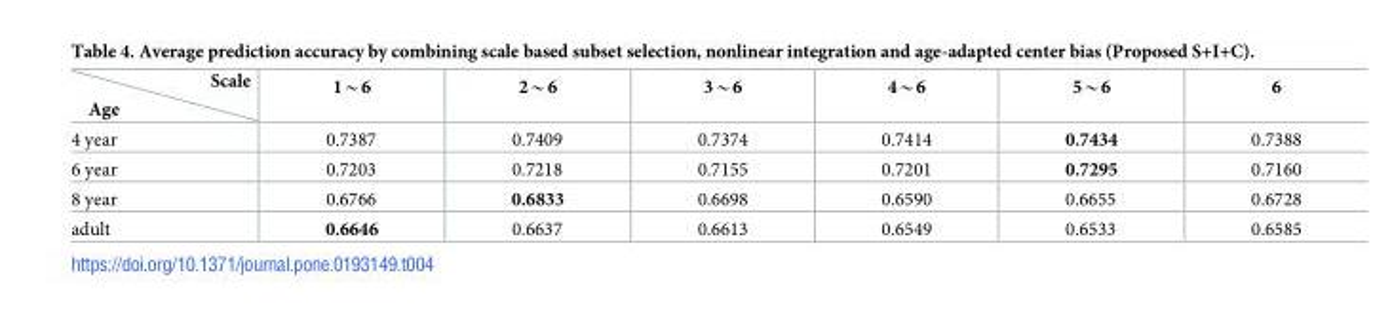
<table><thead><tr><td>Age Scale</td><td>1*6</td><td>2*6</td><td>3*6</td><td>4*6</td><td>5*6</td><td>6</td></tr></thead><tbody><tr><td>4 year</td><td>0.7387</td><td>0.7409</td><td>0.7374</td><td>0.7414</td><td>0.7434</td><td>0.7388</td></tr><tr><td>6 year</td><td>0.7203</td><td>0.7218</td><td>0.7155</td><td>0.7201</td><td>0.7295</td><td>0.7160</td></tr><tr><td>8 year</td><td>0.6766</td><td>0.6833</td><td>0.6698</td><td>0.6590</td><td>0.6655</td><td>0.6728</td></tr><tr><td>adult</td><td>0.6646</td><td>0.6637</td><td>0.6613</td><td>0.6549</td><td>0.6533</td><td>0.6585</td></tr></tbody></table>